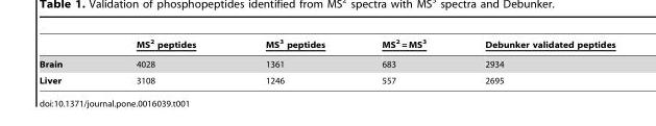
<table><thead><tr><td></td><td>MS<sup>2</sup> peptides</td><td>MS<sup>3</sup> peptides</td><td>MS<sup>2</sup> = MS<sup>3</sup></td><td>Debunker validated peptides</td></tr></thead><tbody><tr><td>Brain</td><td>4028</td><td>1361</td><td>683</td><td>2934</td></tr><tr><td>Liver</td><td>3108</td><td>1246</td><td>557</td><td>2695</td></tr></tbody></table>